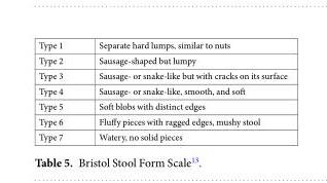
<table><tbody><tr><td>Type 1</td><td>Separate hard lumps, similar to nuts</td></tr><tr><td>Type 2</td><td>Sausage-shaped but lumpy</td></tr><tr><td>Type 3</td><td>Sausage- or snake-like but with cracks on its surface</td></tr><tr><td>Type 4</td><td>Sausage- or snake-like, smooth, and soft</td></tr><tr><td>Type 5</td><td>Soft blobs with distinct edges</td></tr><tr><td>Type 6</td><td>Fluffy pieces with ragged edges, mushy stool</td></tr><tr><td>Type 7</td><td>Watery, no solid pieces</td></tr></tbody></table>